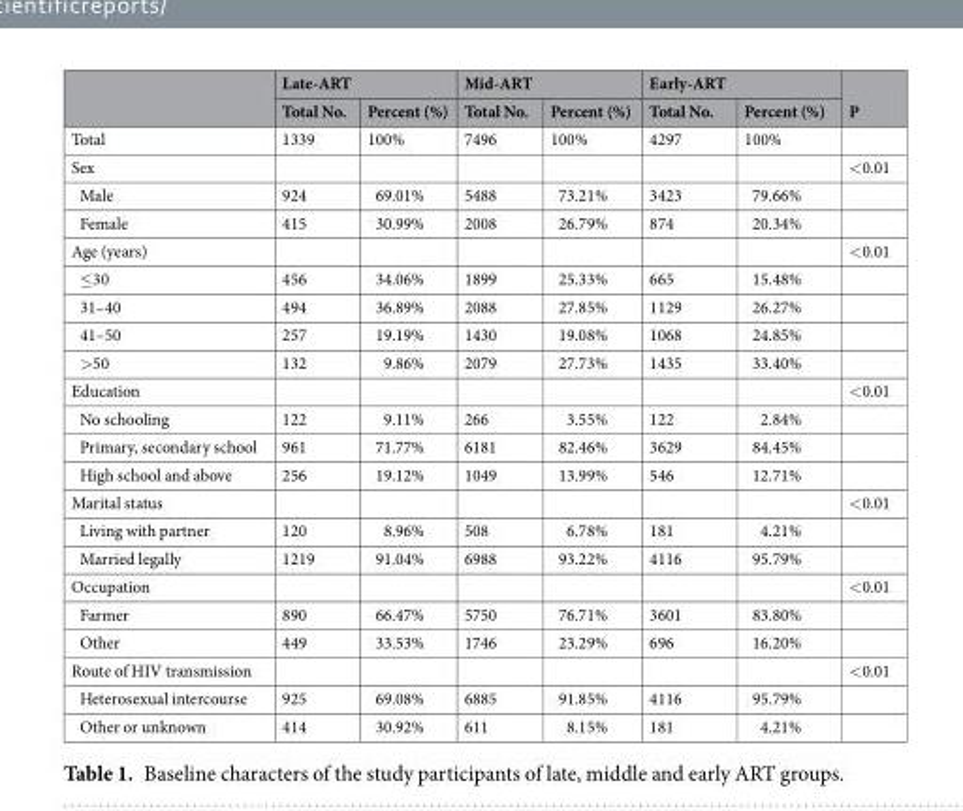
<table><thead><tr><td rowspan="2"></td><td colspan="2">Late-ART</td><td colspan="2">Mid-ART</td><td colspan="2">Early-ART</td><td rowspan="2">P</td></tr><tr><td>Total No.</td><td>Percent (%)</td><td>Total No.</td><td>Percent (%)</td><td>Total No.</td><td>Percent (%)</td></tr></thead><tbody><tr><td>Total</td><td>1339</td><td>100%</td><td>7496</td><td>100%</td><td>4297</td><td>100%</td><td></td></tr><tr><td>Sex</td><td></td><td></td><td></td><td></td><td></td><td></td><td>&lt;0.01</td></tr><tr><td>Male</td><td>924</td><td>69.01%</td><td>5488</td><td>73.21%</td><td>3423</td><td>79.66%</td><td></td></tr><tr><td>Female</td><td>415</td><td>30.99%</td><td>2008</td><td>26.79%</td><td>874</td><td>20.34%</td><td></td></tr><tr><td>Age (years)</td><td></td><td></td><td></td><td></td><td></td><td></td><td>&lt;0.01</td></tr><tr><td>≤30</td><td>456</td><td>34.06%</td><td>1899</td><td>25.33%</td><td>665</td><td>15.48%</td><td></td></tr><tr><td>31–40</td><td>494</td><td>36.89%</td><td>2088</td><td>27.85%</td><td>1129</td><td>26.27%</td><td></td></tr><tr><td>41–50</td><td>257</td><td>19.19%</td><td>1430</td><td>19.08%</td><td>1068</td><td>24.85%</td><td></td></tr><tr><td>&gt;50</td><td>132</td><td>9.86%</td><td>2079</td><td>27.73%</td><td>1435</td><td>33.40%</td><td></td></tr><tr><td>Education</td><td></td><td></td><td></td><td></td><td></td><td></td><td>&lt;0.01</td></tr><tr><td>No schooling</td><td>122</td><td>9.11%</td><td>266</td><td>3.55%</td><td>122</td><td>2.84%</td><td></td></tr><tr><td>Primary, secondary school</td><td>961</td><td>71.77%</td><td>6181</td><td>82.46%</td><td>3629</td><td>84.45%</td><td></td></tr><tr><td>High school and above</td><td>256</td><td>19.12%</td><td>1049</td><td>13.99%</td><td>546</td><td>12.71%</td><td></td></tr><tr><td>Marital status</td><td></td><td></td><td></td><td></td><td></td><td></td><td>&lt;0.01</td></tr><tr><td>Living with partner</td><td>120</td><td>8.96%</td><td>508</td><td>6.78%</td><td>181</td><td>4.21%</td><td></td></tr><tr><td>Married legally</td><td>1219</td><td>91.04%</td><td>6988</td><td>93.22%</td><td>4116</td><td>95.79%</td><td></td></tr><tr><td>Occupation</td><td></td><td></td><td></td><td></td><td></td><td></td><td>&lt;0.01</td></tr><tr><td>Farmer</td><td>890</td><td>66.47%</td><td>5750</td><td>76.71%</td><td>3601</td><td>83.80%</td><td></td></tr><tr><td>Other</td><td>449</td><td>33.53%</td><td>1746</td><td>23.29%</td><td>696</td><td>16.20%</td><td></td></tr><tr><td>Route of HIV transmission</td><td></td><td></td><td></td><td></td><td></td><td></td><td>&lt;0.01</td></tr><tr><td>Heterosexual intercourse</td><td>925</td><td>69.08%</td><td>6885</td><td>91.85%</td><td>4116</td><td>95.79%</td><td></td></tr><tr><td>Other or unknown</td><td>414</td><td>30.92%</td><td>611</td><td>8.15%</td><td>181</td><td>4.21%</td><td></td></tr></tbody></table>